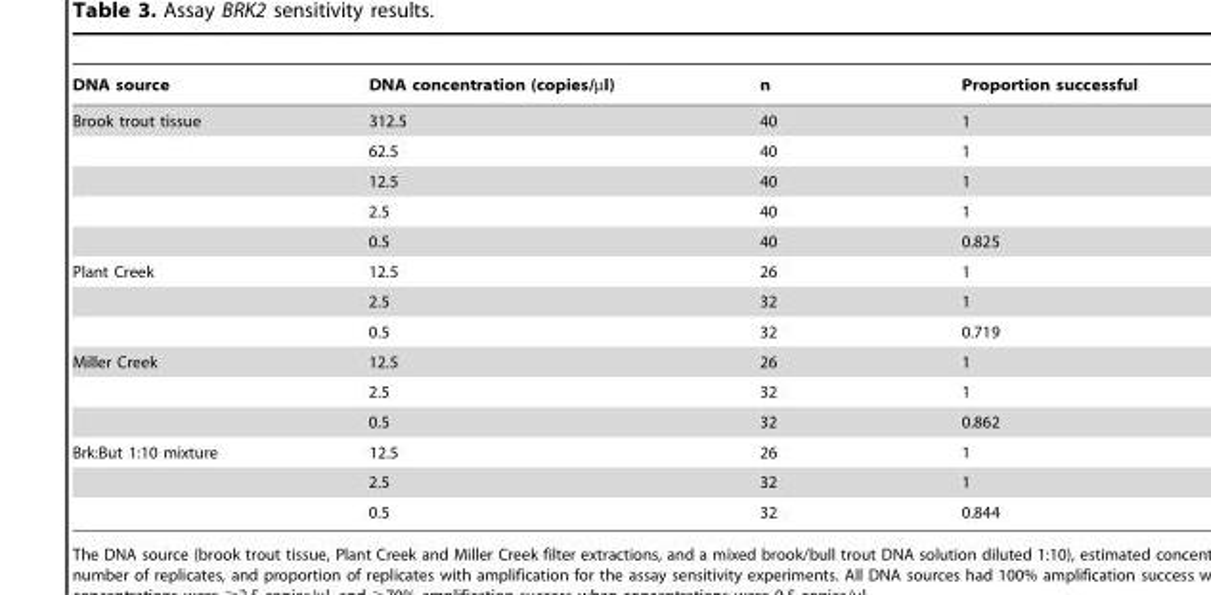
<table><thead><tr><td>DNA source</td><td>DNA concentration (copies/µl)</td><td>n</td><td>Proportion successful</td></tr></thead><tbody><tr><td rowspan="5">Brook trout tissue</td><td>312.5</td><td>40</td><td>1</td></tr><tr><td>62.5</td><td>40</td><td>1</td></tr><tr><td>12.5</td><td>40</td><td>1</td></tr><tr><td>2.5</td><td>40</td><td>1</td></tr><tr><td>0.5</td><td>40</td><td>0.825</td></tr><tr><td rowspan="3">Plant Creek</td><td>12.5</td><td>26</td><td>1</td></tr><tr><td>2.5</td><td>32</td><td>1</td></tr><tr><td>0.5</td><td>32</td><td>0.719</td></tr><tr><td rowspan="3">Miller Creek</td><td>12.5</td><td>26</td><td>1</td></tr><tr><td>2.5</td><td>32</td><td>1</td></tr><tr><td>0.5</td><td>32</td><td>0.862</td></tr><tr><td rowspan="3">Brk:But 1:10 mixture</td><td>12.5</td><td>26</td><td>1</td></tr><tr><td>2.5</td><td>32</td><td>1</td></tr><tr><td>0.5</td><td>32</td><td>0.844</td></tr></tbody></table>